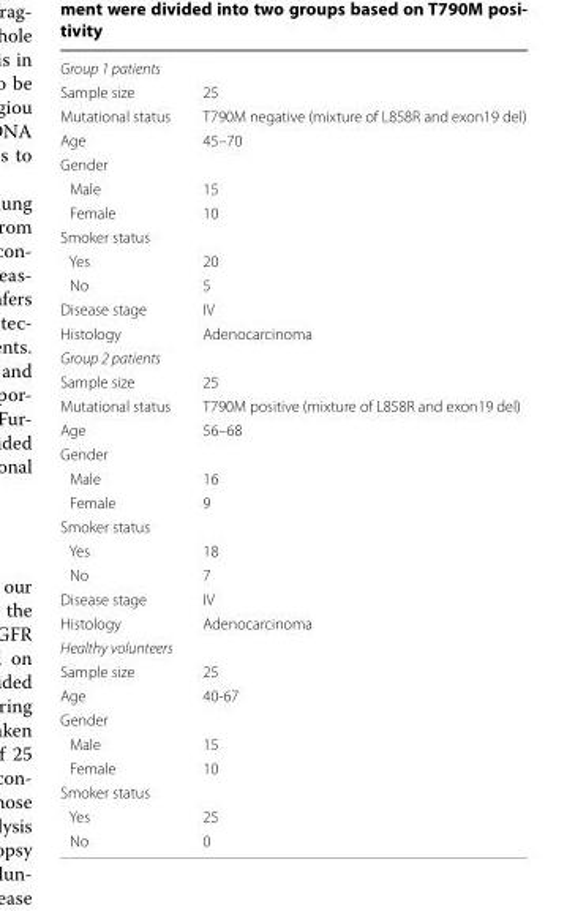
<table><tbody><tr><td colspan="2">Group 1 patients</td></tr><tr><td>Sample size</td><td>25</td></tr><tr><td>Mutational status</td><td>T790M negative (mixture of L858R and exon19 del)</td></tr><tr><td>Age</td><td>45–70</td></tr><tr><td colspan="2">Gender</td></tr><tr><td>Male</td><td>15</td></tr><tr><td>Female</td><td>10</td></tr><tr><td colspan="2">Smoker status</td></tr><tr><td>Yes</td><td>20</td></tr><tr><td>No</td><td>5</td></tr><tr><td>Disease stage</td><td>IV</td></tr><tr><td>Histology</td><td>Adenocarcinoma</td></tr><tr><td colspan="2">Group 2 patients</td></tr><tr><td>Sample size</td><td>25</td></tr><tr><td>Mutational status</td><td>T790M positive (mixture of L858R and exon19 del)</td></tr><tr><td>Age</td><td>56–68</td></tr><tr><td colspan="2">Gender</td></tr><tr><td>Male</td><td>16</td></tr><tr><td>Female</td><td>9</td></tr><tr><td colspan="2">Smoker status</td></tr><tr><td>Yes</td><td>18</td></tr><tr><td>No</td><td>7</td></tr><tr><td>Disease stage</td><td>IV</td></tr><tr><td>Histology</td><td>Adenocarcinoma</td></tr><tr><td colspan="2">Healthy volunteers</td></tr><tr><td>Sample size</td><td>25</td></tr><tr><td>Age</td><td>40-67</td></tr><tr><td colspan="2">Gender</td></tr><tr><td>Male</td><td>15</td></tr><tr><td>Female</td><td>10</td></tr><tr><td colspan="2">Smoker status</td></tr><tr><td>Yes</td><td>25</td></tr><tr><td>No</td><td>0</td></tr></tbody></table>